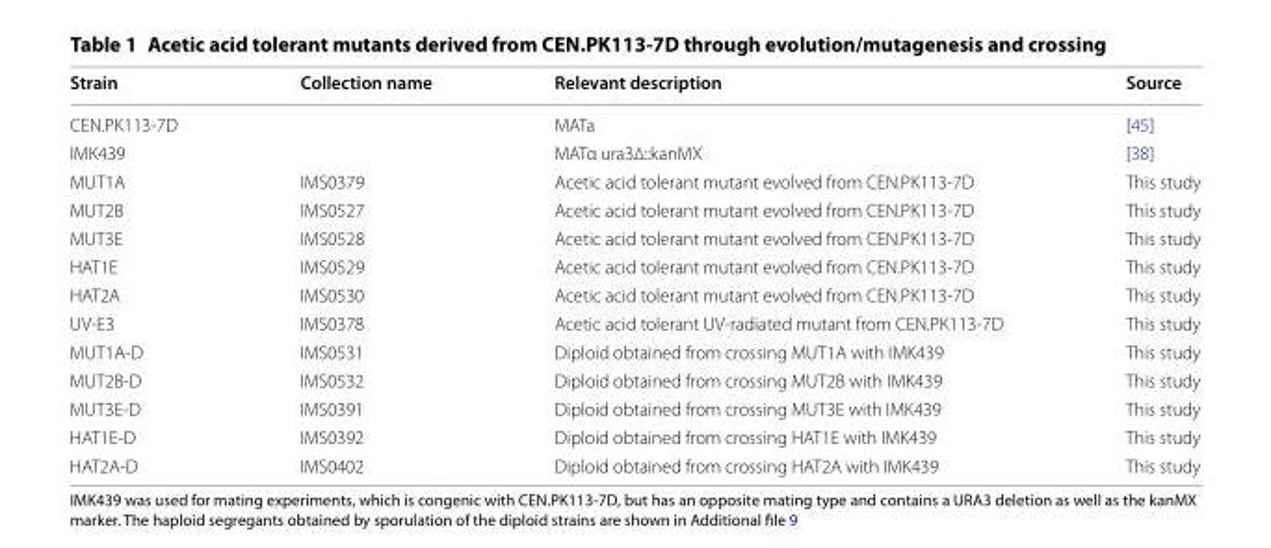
<table><thead><tr><td>Strain</td><td>Collection name</td><td>Relevant description</td><td>Source</td></tr></thead><tbody><tr><td>CEN.PK113‑7D</td><td></td><td>MATa</td><td>[45]</td></tr><tr><td>IMK439</td><td></td><td>MATα ura3∆::kanMX</td><td>[38]</td></tr><tr><td>MUT1A</td><td>IMS0379</td><td>Acetic acid tolerant mutant evolved from CEN.PK113‑7D</td><td>This study</td></tr><tr><td>MUT2B</td><td>IMS0527</td><td>Acetic acid tolerant mutant evolved from CEN.PK113‑7D</td><td>This study</td></tr><tr><td>MUT3E</td><td>IMS0528</td><td>Acetic acid tolerant mutant evolved from CEN.PK113‑7D</td><td>This study</td></tr><tr><td>HAT1E</td><td>IMS0529</td><td>Acetic acid tolerant mutant evolved from CEN.PK113‑7D</td><td>This study</td></tr><tr><td>HAT2A</td><td>IMS0530</td><td>Acetic acid tolerant mutant evolved from CEN.PK113‑7D</td><td>This study</td></tr><tr><td>UV‑E3</td><td>IMS0378</td><td>Acetic acid tolerant UV‑radiated mutant from CEN.PK113‑7D</td><td>This study</td></tr><tr><td>MUT1A‑D</td><td>IMS0531</td><td>Diploid obtained from crossing MUT1A with IMK439</td><td>This study</td></tr><tr><td>MUT2B‑D</td><td>IMS0532</td><td>Diploid obtained from crossing MUT2B with IMK439</td><td>This study</td></tr><tr><td>MUT3E‑D</td><td>IMS0391</td><td>Diploid obtained from crossing MUT3E with IMK439</td><td>This study</td></tr><tr><td>HAT1E‑D</td><td>IMS0392</td><td>Diploid obtained from crossing HAT1E with IMK439</td><td>This study</td></tr><tr><td>HAT2A‑D</td><td>IMS0402</td><td>Diploid obtained from crossing HAT2A with IMK439</td><td>This study</td></tr></tbody></table>